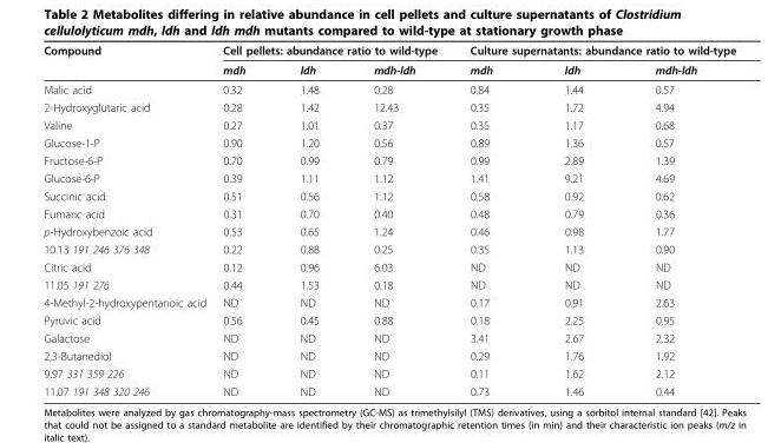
<table><thead><tr><td rowspan="2">Compound</td><td colspan="3">Cell pellets: abundance ratio to wild-type</td><td colspan="3">Culture supernatants: abundance ratio to wild-type</td></tr><tr><td>mdh</td><td>ldh</td><td>mdh-ldh</td><td>mdh</td><td>ldh</td><td>mdh-ldh</td></tr></thead><tbody><tr><td>Malic acid</td><td>0.32</td><td>1.48</td><td>0.28</td><td>0.84</td><td>1.44</td><td>0.57</td></tr><tr><td>2-Hydroxyglutaric acid</td><td>0.28</td><td>1.42</td><td>12.43</td><td>0.35</td><td>1.72</td><td>4.94</td></tr><tr><td>Valine</td><td>0.27</td><td>1.01</td><td>0.37</td><td>0.35</td><td>1.17</td><td>0.68</td></tr><tr><td>Glucose-1-P</td><td>0.90</td><td>1.20</td><td>0.56</td><td>0.89</td><td>1.36</td><td>0.57</td></tr><tr><td>Fructose-6-P</td><td>0.70</td><td>0.99</td><td>0.79</td><td>0.99</td><td>2.89</td><td>1.39</td></tr><tr><td>Glucose-6-P</td><td>0.39</td><td>1.11</td><td>1.12</td><td>1.41</td><td>9.21</td><td>4.69</td></tr><tr><td>Succinic acid</td><td>0.51</td><td>0.56</td><td>1.12</td><td>0.58</td><td>0.92</td><td>0.62</td></tr><tr><td>Fumaric acid</td><td>0.31</td><td>0.70</td><td>0.40</td><td>0.48</td><td>0.79</td><td>0.36</td></tr><tr><td>p-Hydroxybenzoic acid</td><td>0.53</td><td>0.65</td><td>1.24</td><td>0.46</td><td>0.98</td><td>1.77</td></tr><tr><td>10.13 191 246 376 348</td><td>0.22</td><td>0.88</td><td>0.25</td><td>0.35</td><td>1.13</td><td>0.90</td></tr><tr><td>Citric acid</td><td>0.12</td><td>0.96</td><td>6.03</td><td>ND</td><td>ND</td><td>ND</td></tr><tr><td>11.05 191 276</td><td>0.44</td><td>1.53</td><td>0.18</td><td>ND</td><td>ND</td><td>ND</td></tr><tr><td>4-Methyl-2-hydroxypentanoic acid</td><td>ND</td><td>ND</td><td>ND</td><td>0.17</td><td>0.91</td><td>2.63</td></tr><tr><td>Pyruvic acid</td><td>0.56</td><td>0.45</td><td>0.88</td><td>0.18</td><td>2.25</td><td>0.95</td></tr><tr><td>Galactose</td><td>ND</td><td>ND</td><td>ND</td><td>3.41</td><td>2.67</td><td>2.32</td></tr><tr><td>2,3-Butanediol</td><td>ND</td><td>ND</td><td>ND</td><td>0.29</td><td>1.76</td><td>1.92</td></tr><tr><td>9.97 331 359 226</td><td>ND</td><td>ND</td><td>ND</td><td>0.11</td><td>1.62</td><td>2.12</td></tr><tr><td>11.07 191 348 320 246</td><td>ND</td><td>ND</td><td>ND</td><td>0.73</td><td>1.46</td><td>0.44</td></tr></tbody></table>